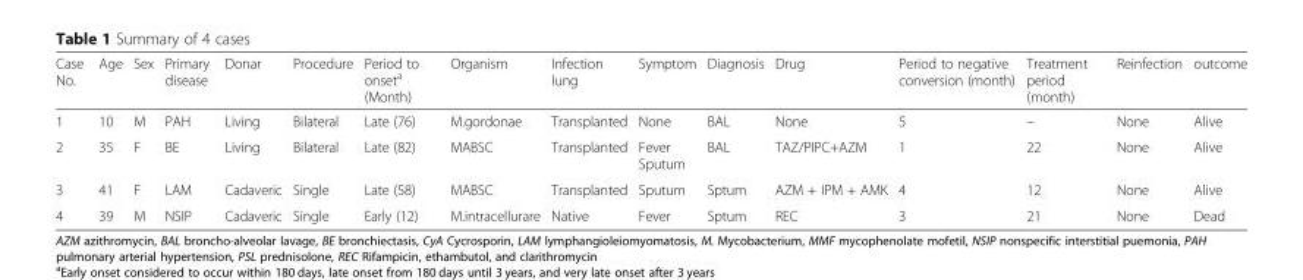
<table><thead><tr><td>Case No.</td><td>Age</td><td>Sex</td><td>Primary disease</td><td>Donar</td><td>Procedure</td><td>Period to onset<sup>a</sup> (Month)</td><td>Organism</td><td>Infection lung</td><td>Symptom</td><td>Diagnosis</td><td>Drug</td><td>Period to negative conversion (month)</td><td>Treatment period (month)</td><td>Reinfection</td><td>outcome</td></tr></thead><tbody><tr><td>1</td><td>10</td><td>M</td><td>PAH</td><td>Living</td><td>Bilateral</td><td>Late (76)</td><td>M.gordonae</td><td>Transplanted</td><td>None</td><td>BAL</td><td>None</td><td>5</td><td>–</td><td>None</td><td>Alive</td></tr><tr><td>2</td><td>35</td><td>F</td><td>BE</td><td>Living</td><td>Bilateral</td><td>Late (82)</td><td>MABSC</td><td>Transplanted</td><td>Fever Sputum</td><td>BAL</td><td>TAZ/PIPC+AZM</td><td>1</td><td>22</td><td>None</td><td>Alive</td></tr><tr><td>3</td><td>41</td><td>F</td><td>LAM</td><td>Cadaveric</td><td>Single</td><td>Late (58)</td><td>MABSC</td><td>Transplanted</td><td>Sputum</td><td>Sptum</td><td>AZM + IPM + AMK</td><td>4</td><td>12</td><td>None</td><td>Alive</td></tr><tr><td>4</td><td>39</td><td>M</td><td>NSIP</td><td>Cadaveric</td><td>Single</td><td>Early (12)</td><td>M.intracellurare</td><td>Native</td><td>Fever</td><td>Sptum</td><td>REC</td><td>3</td><td>21</td><td>None</td><td>Dead</td></tr></tbody></table>